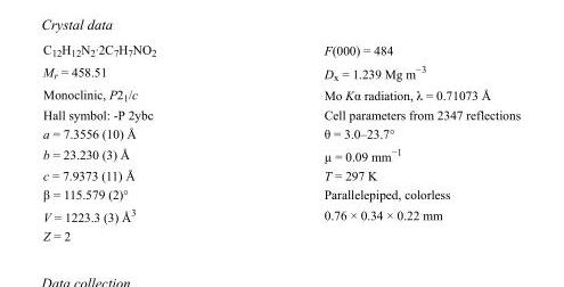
<table><tbody><tr><td>C<sub>12</sub>H<sub>12</sub>N<sub>2</sub>·2C<sub>7</sub>H<sub>7</sub>NO<sub>2</sub></td><td>F(000) = 484</td></tr><tr><td>M<sub>r</sub> = 458.51</td><td>D<sub>x</sub> = 1.239 Mg m<sup>−3</sup></td></tr><tr><td>Monoclinic, P2<sub>1</sub>/c</td><td>Mo Kα radiation, λ = 0.71073 Å</td></tr><tr><td>Hall symbol: -P 2ybc</td><td>Cell parameters from 2347 reflections</td></tr><tr><td>a = 7.3556 (10) Å</td><td>θ = 3.0–23.7°</td></tr><tr><td>b = 23.230 (3) Å</td><td>µ = 0.09 mm<sup>−1</sup></td></tr><tr><td>c = 7.9373 (11) Å</td><td>T = 297 K</td></tr><tr><td>β = 115.579 (2)°</td><td>Parallelepiped, colorless</td></tr><tr><td>V = 1223.3 (3) Å<sup>3</sup></td><td>0.76 × 0.34 × 0.22 mm</td></tr><tr><td>Z = 2</td><td></td></tr></tbody></table>